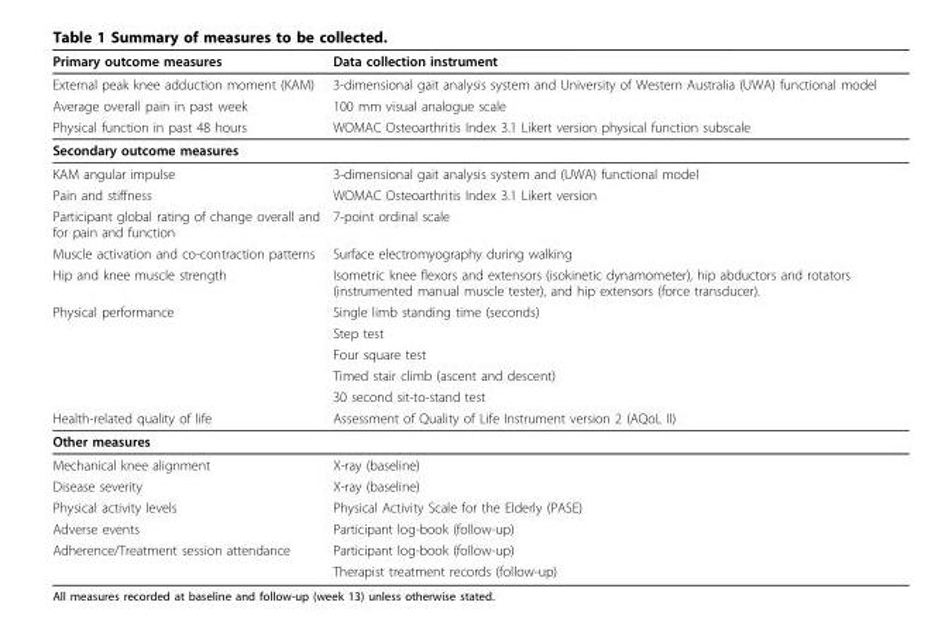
<table><thead><tr><td>Primary outcome measures</td><td>Data collection instrument</td></tr></thead><tbody><tr><td>External peak knee adduction moment (KAM)</td><td>3-dimensional gait analysis system and University of Western Australia (UWA) functional model</td></tr><tr><td>Average overall pain in past week</td><td>100 mm visual analogue scale</td></tr><tr><td>Physical function in past 48 hours</td><td>WOMAC Osteoarthritis Index 3.1 Likert version physical function subscale</td></tr><tr><td colspan="2">Secondary outcome measures</td></tr><tr><td>KAM angular impulse</td><td>3-dimensional gait analysis system and (UWA) functional model</td></tr><tr><td>Pain and stiffness</td><td>WOMAC Osteoarthritis Index 3.1 Likert version</td></tr><tr><td>Participant global rating of change overall and for pain and function</td><td>7-point ordinal scale</td></tr><tr><td>Muscle activation and co-contraction patterns</td><td>Surface electromyography during walking</td></tr><tr><td>Hip and knee muscle strength</td><td>Isometric knee flexors and extensors (isokinetic dynamometer), hip abductors and rotators (instrumented manual muscle tester), and hip extensors (force transducer).</td></tr><tr><td rowspan="5">Physical performance</td><td>Single limb standing time (seconds)</td></tr><tr><td>Step test</td></tr><tr><td>Four square test</td></tr><tr><td>Timed stair climb (ascent and descent)</td></tr><tr><td>30 second sit-to-stand test</td></tr><tr><td>Health-related quality of life</td><td>Assessment of Quality of Life Instrument version 2 (AQoL II)</td></tr><tr><td colspan="2">Other measures</td></tr><tr><td>Mechanical knee alignment</td><td>X-ray (baseline)</td></tr><tr><td>Disease severity</td><td>X-ray (baseline)</td></tr><tr><td>Physical activity levels</td><td>Physical Activity Scale for the Elderly (PASE)</td></tr><tr><td>Adverse events</td><td>Participant log-book (follow-up)</td></tr><tr><td rowspan="2">Adherence/Treatment session attendance</td><td>Participant log-book (follow-up)</td></tr><tr><td>Therapist treatment records (follow-up)</td></tr></tbody></table>